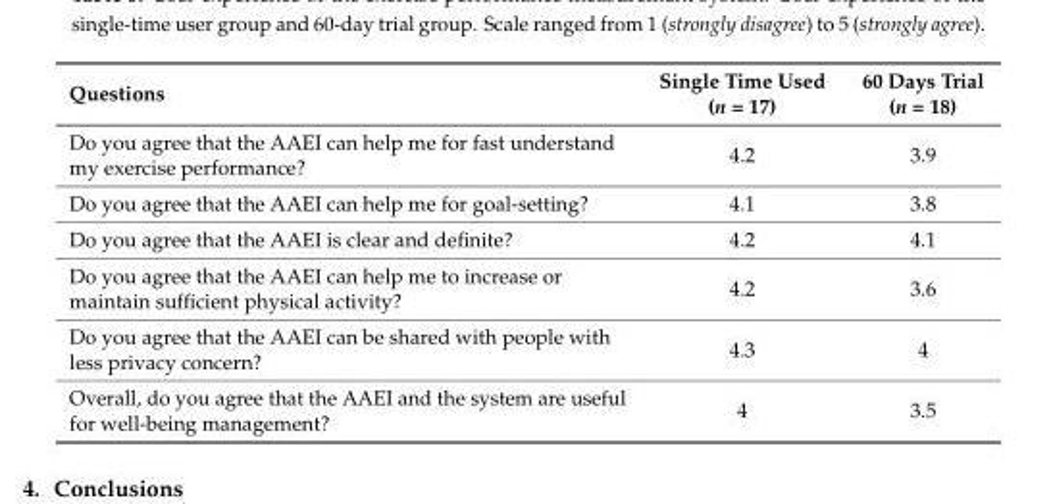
<table><thead><tr><td>Questions</td><td>Single Time Used (n = 17)</td><td>60 Days Trial (n = 18)</td></tr></thead><tbody><tr><td>Do you agree that the AAEI can help me for fast understand my exercise performance?</td><td>4.2</td><td>3.9</td></tr><tr><td>Do you agree that the AAEI can help me for goal-setting?</td><td>4.1</td><td>3.8</td></tr><tr><td>Do you agree that the AAEI is clear and definite?</td><td>4.2</td><td>4.1</td></tr><tr><td>Do you agree that the AAEI can help me to increase or maintain sufficient physical activity?</td><td>4.2</td><td>3.6</td></tr><tr><td>Do you agree that the AAEI can be shared with people with less privacy concern?</td><td>4.3</td><td>4</td></tr><tr><td>Overall, do you agree that the AAEI and the system are useful for well-being management?</td><td>4</td><td>3.5</td></tr></tbody></table>